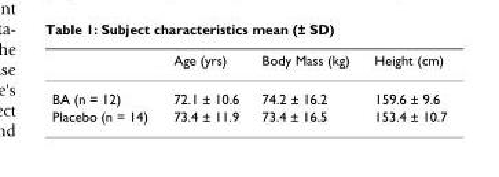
<table><thead><tr><td></td><td>Age (yrs)</td><td>Body Mass (kg)</td><td>Height (cm)</td></tr></thead><tbody><tr><td>BA (n = 12)</td><td>72.1 ± 10.6</td><td>74.2 ± 16.2</td><td>159.6 ± 9.6</td></tr><tr><td>Placebo (n = 14)</td><td>73.4 ± 11.9</td><td>73.4 ± 16.5</td><td>153.4 ± 10.7</td></tr></tbody></table>